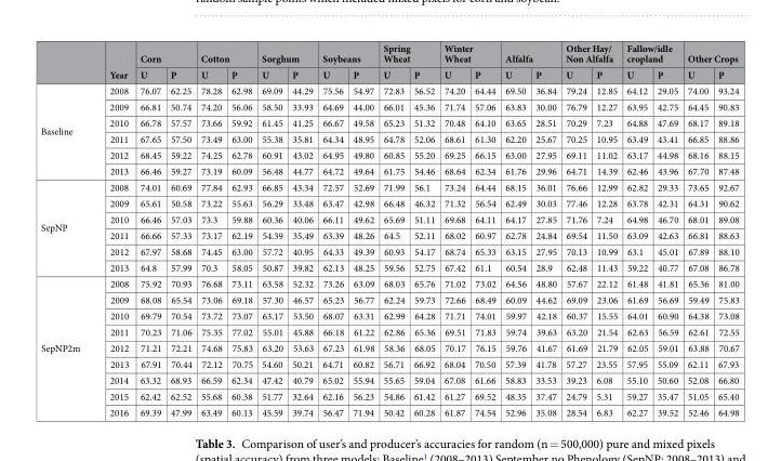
<table><thead><tr><td rowspan="2"></td><td rowspan="2">Year</td><td colspan="2">Corn</td><td colspan="2">Cotton</td><td colspan="2">Sorghum</td><td colspan="2">Soybeans</td><td colspan="2">Spring Wheat</td><td colspan="2">Winter Wheat</td><td colspan="2">Alfalfa</td><td colspan="2">Other Hay/ Non Alfalfa</td><td colspan="2">Fallow/idle cropland</td><td colspan="2">Other Crops</td></tr><tr><td>U</td><td>P</td><td>U</td><td>P</td><td>U</td><td>P</td><td>U</td><td>P</td><td>U</td><td>P</td><td>U</td><td>P</td><td>U</td><td>P</td><td>U</td><td>P</td><td>U</td><td>P</td><td>U</td><td>P</td></tr></thead><tbody><tr><td rowspan="6">Baseline</td><td>2008</td><td>76.07</td><td>62.25</td><td>78.28</td><td>62.98</td><td>69.09</td><td>44.29</td><td>75.56</td><td>54.97</td><td>72.83</td><td>56.52</td><td>74.20</td><td>64.44</td><td>69.50</td><td>36.84</td><td>79.24</td><td>12.85</td><td>64.12</td><td>29.05</td><td>74.00</td><td>93.24</td></tr><tr><td>2009</td><td>66.81</td><td>50.74</td><td>74.20</td><td>56.06</td><td>58.50</td><td>33.93</td><td>64.69</td><td>44.00</td><td>66.01</td><td>45.36</td><td>71.74</td><td>57.06</td><td>63.83</td><td>30.00</td><td>76.79</td><td>12.27</td><td>63.95</td><td>42.75</td><td>64.45</td><td>90.83</td></tr><tr><td>2010</td><td>66.78</td><td>57.57</td><td>73.66</td><td>59.92</td><td>61.45</td><td>41.25</td><td>66.67</td><td>49.58</td><td>65.23</td><td>51.32</td><td>70.48</td><td>64.10</td><td>63.65</td><td>28.51</td><td>70.29</td><td>7.23</td><td>64.88</td><td>47.69</td><td>68.17</td><td>89.18</td></tr><tr><td>2011</td><td>67.65</td><td>57.50</td><td>73.49</td><td>63.00</td><td>55.38</td><td>35.81</td><td>64.34</td><td>48.95</td><td>64.78</td><td>52.06</td><td>68.61</td><td>61.30</td><td>62.20</td><td>25.67</td><td>70.25</td><td>10.95</td><td>63.49</td><td>43.41</td><td>66.85</td><td>88.86</td></tr><tr><td>2012</td><td>68.45</td><td>59.22</td><td>74.25</td><td>62.78</td><td>60.91</td><td>43.02</td><td>64.95</td><td>49.80</td><td>60.85</td><td>55.20</td><td>69.25</td><td>66.15</td><td>63.00</td><td>27.95</td><td>69.11</td><td>11.02</td><td>63.17</td><td>44.98</td><td>68.16</td><td>88.15</td></tr><tr><td>2013</td><td>66.46</td><td>59.27</td><td>73.19</td><td>60.09</td><td>56.48</td><td>44.77</td><td>64.72</td><td>49.64</td><td>61.75</td><td>54.46</td><td>68.64</td><td>62.34</td><td>61.76</td><td>29.96</td><td>64.71</td><td>14.39</td><td>62.46</td><td>43.96</td><td>67.70</td><td>87.48</td></tr><tr><td rowspan="6">SepNP</td><td>2008</td><td>74.01</td><td>60.69</td><td>77.84</td><td>62.93</td><td>66.85</td><td>43.34</td><td>72.57</td><td>52.69</td><td>71.99</td><td>56.1</td><td>73.24</td><td>64.44</td><td>68.15</td><td>36.01</td><td>76.66</td><td>12.99</td><td>62.82</td><td>29.33</td><td>73.65</td><td>92.67</td></tr><tr><td>2009</td><td>65.61</td><td>50.58</td><td>73.22</td><td>55.63</td><td>56.29</td><td>33.48</td><td>63.47</td><td>42.98</td><td>66.48</td><td>46.32</td><td>71.32</td><td>56.54</td><td>62.49</td><td>30.03</td><td>77.46</td><td>12.28</td><td>63.78</td><td>42.31</td><td>64.31</td><td>90.62</td></tr><tr><td>2010</td><td>66.46</td><td>57.03</td><td>73.3</td><td>59.88</td><td>60.36</td><td>40.06</td><td>66.11</td><td>49.62</td><td>65.69</td><td>51.11</td><td>69.68</td><td>64.11</td><td>64.17</td><td>27.85</td><td>71.76</td><td>7.24</td><td>64.98</td><td>46.70</td><td>68.01</td><td>89.08</td></tr><tr><td>2011</td><td>66.66</td><td>57.33</td><td>73.17</td><td>62.19</td><td>54.39</td><td>35.49</td><td>63.39</td><td>48.26</td><td>64.5</td><td>52.11</td><td>68.02</td><td>60.97</td><td>62.78</td><td>24.84</td><td>69.54</td><td>11.50</td><td>63.09</td><td>42.63</td><td>66.81</td><td>88.63</td></tr><tr><td>2012</td><td>67.97</td><td>58.68</td><td>74.45</td><td>63.00</td><td>57.72</td><td>40.95</td><td>64.33</td><td>49.39</td><td>60.93</td><td>54.17</td><td>68.74</td><td>65.33</td><td>63.15</td><td>27.95</td><td>70.13</td><td>10.99</td><td>63.1</td><td>45.01</td><td>67.89</td><td>88.10</td></tr><tr><td>2013</td><td>64.8</td><td>57.99</td><td>70.3</td><td>58.05</td><td>50.87</td><td>39.82</td><td>62.13</td><td>48.25</td><td>59.56</td><td>52.75</td><td>67.42</td><td>61.1</td><td>60.54</td><td>28.9</td><td>62.48</td><td>11.43</td><td>59.22</td><td>40.77</td><td>67.08</td><td>86.78</td></tr><tr><td rowspan="9">SepNP2m</td><td>2008</td><td>75.92</td><td>70.93</td><td>76.68</td><td>73.11</td><td>63.58</td><td>52.32</td><td>73.26</td><td>63.09</td><td>68.03</td><td>65.76</td><td>71.02</td><td>73.02</td><td>64.56</td><td>48.80</td><td>57.67</td><td>22.12</td><td>61.48</td><td>41.81</td><td>65.36</td><td>81.00</td></tr><tr><td>2009</td><td>68.08</td><td>65.54</td><td>73.06</td><td>69.18</td><td>57.30</td><td>46.57</td><td>65.23</td><td>56.77</td><td>62.24</td><td>59.73</td><td>72.66</td><td>68.49</td><td>60.09</td><td>44.62</td><td>69.09</td><td>23.06</td><td>61.69</td><td>56.69</td><td>59.49</td><td>75.83</td></tr><tr><td>2010</td><td>69.79</td><td>70.54</td><td>73.72</td><td>73.07</td><td>63.17</td><td>53.50</td><td>68.07</td><td>63.31</td><td>62.99</td><td>64.28</td><td>71.71</td><td>74.01</td><td>59.97</td><td>42.18</td><td>60.37</td><td>15.55</td><td>64.01</td><td>60.90</td><td>64.38</td><td>73.08</td></tr><tr><td>2011</td><td>70.23</td><td>71.06</td><td>75.35</td><td>77.02</td><td>55.01</td><td>45.88</td><td>66.18</td><td>61.22</td><td>62.86</td><td>65.36</td><td>69.51</td><td>71.83</td><td>59.74</td><td>39.63</td><td>63.20</td><td>21.54</td><td>62.63</td><td>56.59</td><td>62.61</td><td>72.55</td></tr><tr><td>2012</td><td>71.21</td><td>72.21</td><td>74.68</td><td>75.83</td><td>63.20</td><td>53.63</td><td>67.23</td><td>61.98</td><td>58.36</td><td>68.05</td><td>70.17</td><td>76.15</td><td>59.76</td><td>41.67</td><td>61.69</td><td>21.79</td><td>62.05</td><td>59.01</td><td>63.88</td><td>70.67</td></tr><tr><td>2013</td><td>67.91</td><td>70.44</td><td>72.12</td><td>70.75</td><td>54.60</td><td>50.21</td><td>64.71</td><td>60.82</td><td>56.71</td><td>66.92</td><td>68.04</td><td>70.50</td><td>57.39</td><td>41.78</td><td>57.27</td><td>23.55</td><td>57.95</td><td>55.09</td><td>62.11</td><td>67.93</td></tr><tr><td>2014</td><td>63.32</td><td>68.93</td><td>66.59</td><td>62.34</td><td>47.42</td><td>40.79</td><td>65.02</td><td>55.94</td><td>55.65</td><td>59.04</td><td>67.08</td><td>61.66</td><td>58.83</td><td>33.53</td><td>39.23</td><td>6.08</td><td>55.10</td><td>50.60</td><td>52.08</td><td>66.80</td></tr><tr><td>2015</td><td>62.42</td><td>62.52</td><td>55.68</td><td>60.38</td><td>51.77</td><td>32.64</td><td>62.16</td><td>56.23</td><td>54.86</td><td>61.42</td><td>61.27</td><td>69.52</td><td>48.35</td><td>37.47</td><td>24.79</td><td>5.31</td><td>59.27</td><td>35.47</td><td>51.05</td><td>65.40</td></tr><tr><td>2016</td><td>69.39</td><td>47.99</td><td>63.49</td><td>60.13</td><td>45.59</td><td>39.74</td><td>56.47</td><td>71.94</td><td>50.42</td><td>60.28</td><td>61.87</td><td>74.54</td><td>52.96</td><td>35.08</td><td>28.54</td><td>6.83</td><td>62.27</td><td>39.52</td><td>52.46</td><td>64.98</td></tr></tbody></table>